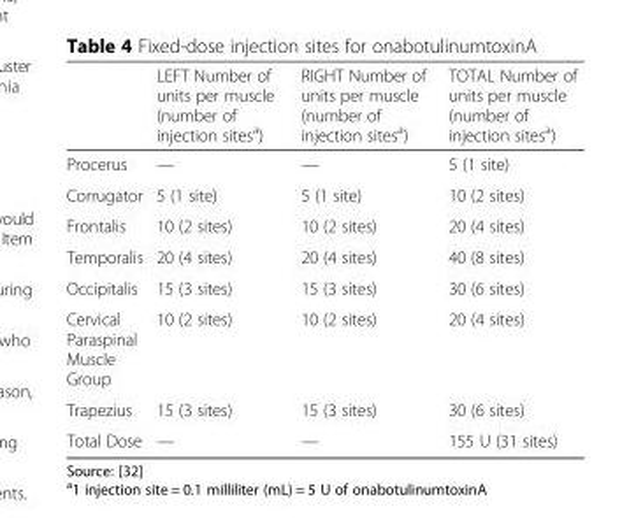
<table><thead><tr><td></td><td>LEFT Number of units per muscle (number of injection sites<sup>a</sup>)</td><td>RIGHT Number of units per muscle (number of injection sites<sup>a</sup>)</td><td>TOTAL Number of units per muscle (number of injection sites<sup>a</sup>)</td></tr></thead><tbody><tr><td>Procerus</td><td>—</td><td>—</td><td>5 (1 site)</td></tr><tr><td>Corrugator</td><td>5 (1 site)</td><td>5 (1 site)</td><td>10 (2 sites)</td></tr><tr><td>Frontalis</td><td>10 (2 sites)</td><td>10 (2 sites)</td><td>20 (4 sites)</td></tr><tr><td>Temporalis</td><td>20 (4 sites)</td><td>20 (4 sites)</td><td>40 (8 sites)</td></tr><tr><td>Occipitalis</td><td>15 (3 sites)</td><td>15 (3 sites)</td><td>30 (6 sites)</td></tr><tr><td>Cervical Paraspinal Muscle Group</td><td>10 (2 sites)</td><td>10 (2 sites)</td><td>20 (4 sites)</td></tr><tr><td>Trapezius</td><td>15 (3 sites)</td><td>15 (3 sites)</td><td>30 (6 sites)</td></tr><tr><td>Total Dose</td><td>—</td><td>—</td><td>155 U (31 sites)</td></tr></tbody></table>